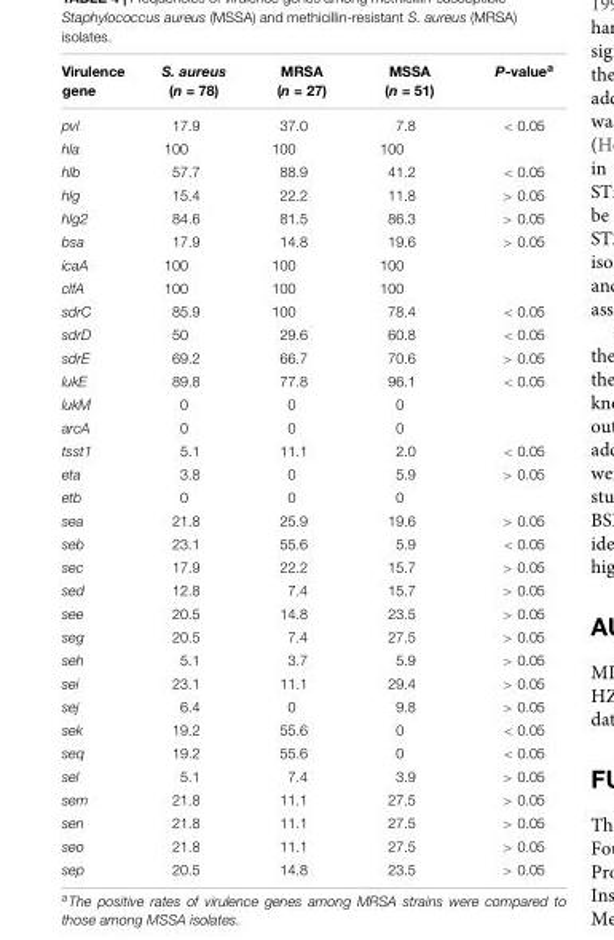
<table><thead><tr><td>Virulence gene</td><td>S. aureus (n = 78)</td><td>MRSA (n = 27)</td><td>MSSA (n = 51)</td><td>P-value<sup>a</sup></td></tr></thead><tbody><tr><td>pvl</td><td>17.9</td><td>37.0</td><td>7.8</td><td>&lt; 0.05</td></tr><tr><td>hla</td><td>100</td><td>100</td><td>100</td><td></td></tr><tr><td>hlb</td><td>57.7</td><td>88.9</td><td>41.2</td><td>&lt; 0.05</td></tr><tr><td>hlg</td><td>15.4</td><td>22.2</td><td>11.8</td><td>&gt; 0.05</td></tr><tr><td>hlg2</td><td>84.6</td><td>81.5</td><td>86.3</td><td>&gt; 0.05</td></tr><tr><td>bsa</td><td>17.9</td><td>14.8</td><td>19.6</td><td>&gt; 0.05</td></tr><tr><td>icaA</td><td>100</td><td>100</td><td>100</td><td></td></tr><tr><td>clfA</td><td>100</td><td>100</td><td>100</td><td></td></tr><tr><td>sdrC</td><td>85.9</td><td>100</td><td>78.4</td><td>&lt; 0.05</td></tr><tr><td>sdrD</td><td>50</td><td>29.6</td><td>60.8</td><td>&lt; 0.05</td></tr><tr><td>sdrE</td><td>69.2</td><td>66.7</td><td>70.6</td><td>&gt; 0.05</td></tr><tr><td>lukE</td><td>89.8</td><td>77.8</td><td>96.1</td><td>&lt; 0.05</td></tr><tr><td>lukM</td><td>0</td><td>0</td><td>0</td><td></td></tr><tr><td>arcA</td><td>0</td><td>0</td><td>0</td><td></td></tr><tr><td>tsst1</td><td>5.1</td><td>11.1</td><td>2.0</td><td>&lt; 0.05</td></tr><tr><td>eta</td><td>3.8</td><td>0</td><td>5.9</td><td>&gt; 0.05</td></tr><tr><td>etb</td><td>0</td><td>0</td><td>0</td><td></td></tr><tr><td>sea</td><td>21.8</td><td>25.9</td><td>19.6</td><td>&gt; 0.05</td></tr><tr><td>seb</td><td>23.1</td><td>55.6</td><td>5.9</td><td>&lt; 0.05</td></tr><tr><td>sec</td><td>17.9</td><td>22.2</td><td>15.7</td><td>&gt; 0.05</td></tr><tr><td>sed</td><td>12.8</td><td>7.4</td><td>15.7</td><td>&gt; 0.05</td></tr><tr><td>see</td><td>20.5</td><td>14.8</td><td>23.5</td><td>&gt; 0.05</td></tr><tr><td>seg</td><td>20.5</td><td>7.4</td><td>27.5</td><td>&gt; 0.05</td></tr><tr><td>seh</td><td>5.1</td><td>3.7</td><td>5.9</td><td>&gt; 0.05</td></tr><tr><td>sei</td><td>23.1</td><td>11.1</td><td>29.4</td><td>&gt; 0.05</td></tr><tr><td>sej</td><td>6.4</td><td>0</td><td>9.8</td><td>&gt; 0.05</td></tr><tr><td>sek</td><td>19.2</td><td>55.6</td><td>0</td><td>&lt; 0.05</td></tr><tr><td>seq</td><td>19.2</td><td>55.6</td><td>0</td><td>&lt; 0.05</td></tr><tr><td>sel</td><td>5.1</td><td>7.4</td><td>3.9</td><td>&gt; 0.05</td></tr><tr><td>sem</td><td>21.8</td><td>11.1</td><td>27.5</td><td>&gt; 0.05</td></tr><tr><td>sen</td><td>21.8</td><td>11.1</td><td>27.5</td><td>&gt; 0.05</td></tr><tr><td>seo</td><td>21.8</td><td>11.1</td><td>27.5</td><td>&gt; 0.05</td></tr><tr><td>sep</td><td>20.5</td><td>14.8</td><td>23.5</td><td>&gt; 0.05</td></tr></tbody></table>